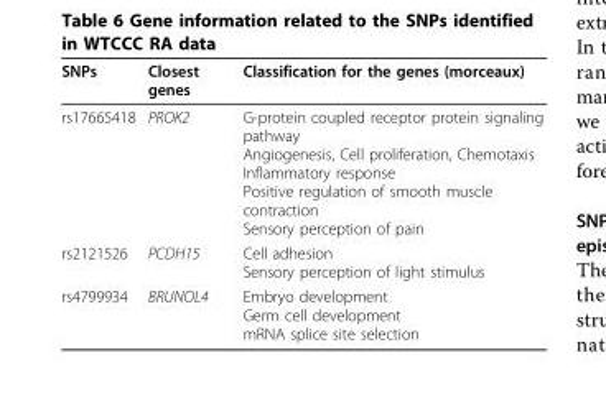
<table><thead><tr><td>SNPs</td><td>Closest genes</td><td>Classification for the genes (morceaux)</td></tr></thead><tbody><tr><td>rs17665418</td><td>PROK2</td><td>G-protein coupled receptor protein signaling pathway Angiogenesis, Cell proliferation, Chemotaxis Inflammatory response Positive regulation of smooth muscle contraction Sensory perception of pain</td></tr><tr><td>rs2121526</td><td>PCDH15</td><td>Cell adhesion Sensory perception of light stimulus</td></tr><tr><td>rs4799934</td><td>BRUNOL4</td><td>Embryo development Germ cell development mRNA splice site selection</td></tr></tbody></table>